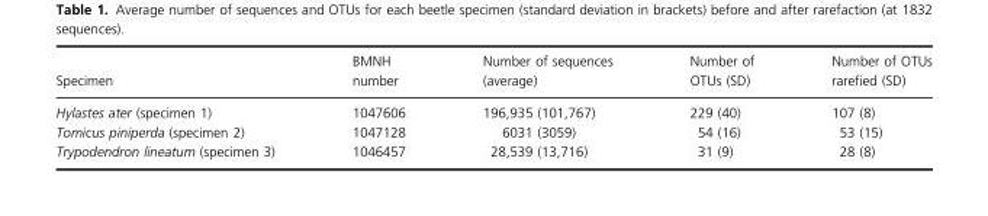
<table><thead><tr><td>Specimen</td><td>BMNH number</td><td>Number of sequences (average)</td><td>Number of OTUs (SD)</td><td>Number of OTUs rarefied (SD)</td></tr></thead><tbody><tr><td>Hylastes ater (specimen 1)</td><td>1047606</td><td>196,935 (101,767)</td><td>229 (40)</td><td>107 (8)</td></tr><tr><td>Tomicus piniperda (specimen 2)</td><td>1047128</td><td>6031 (3059)</td><td>54 (16)</td><td>53 (15)</td></tr><tr><td>Trypodendron lineatum (specimen 3)</td><td>1046457</td><td>28,539 (13,716)</td><td>31 (9)</td><td>28 (8)</td></tr></tbody></table>